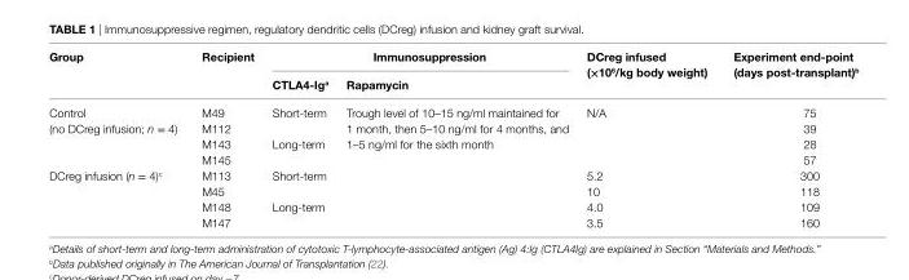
<table><thead><tr><td rowspan="2">group</td><td rowspan="2">recipient</td><td colspan="2">immunosuppression</td><td rowspan="2">Dcreg infused (×10<sup>6</sup>/kg body weight)</td><td rowspan="2">experiment end-point (days post-transplant)<sup>b</sup></td></tr><tr><td>cTla4-ig<sup>a</sup></td><td>rapamycin</td></tr></thead><tbody><tr><td rowspan="2">Control (no DCreg infusion; n = 4)</td><td>M49 M112</td><td>Short-term</td><td rowspan="4">Trough level of 10–15 ng/ml maintained for 1 month, then 5–10 ng/ml for 4 months, and 1–5 ng/ml for the sixth month</td><td rowspan="2">N/A</td><td>75 39</td></tr><tr><td>M143 M145</td><td>Long-term</td><td>28 57</td></tr><tr><td rowspan="2">DCreg infusion (n = 4)<sup>c</sup></td><td>M113 M45</td><td>Short-term</td><td>5.2 10</td><td>300 118</td></tr><tr><td>M148 M147</td><td>Long-term</td><td>4.0 3.5</td><td>109 160</td></tr></tbody></table>